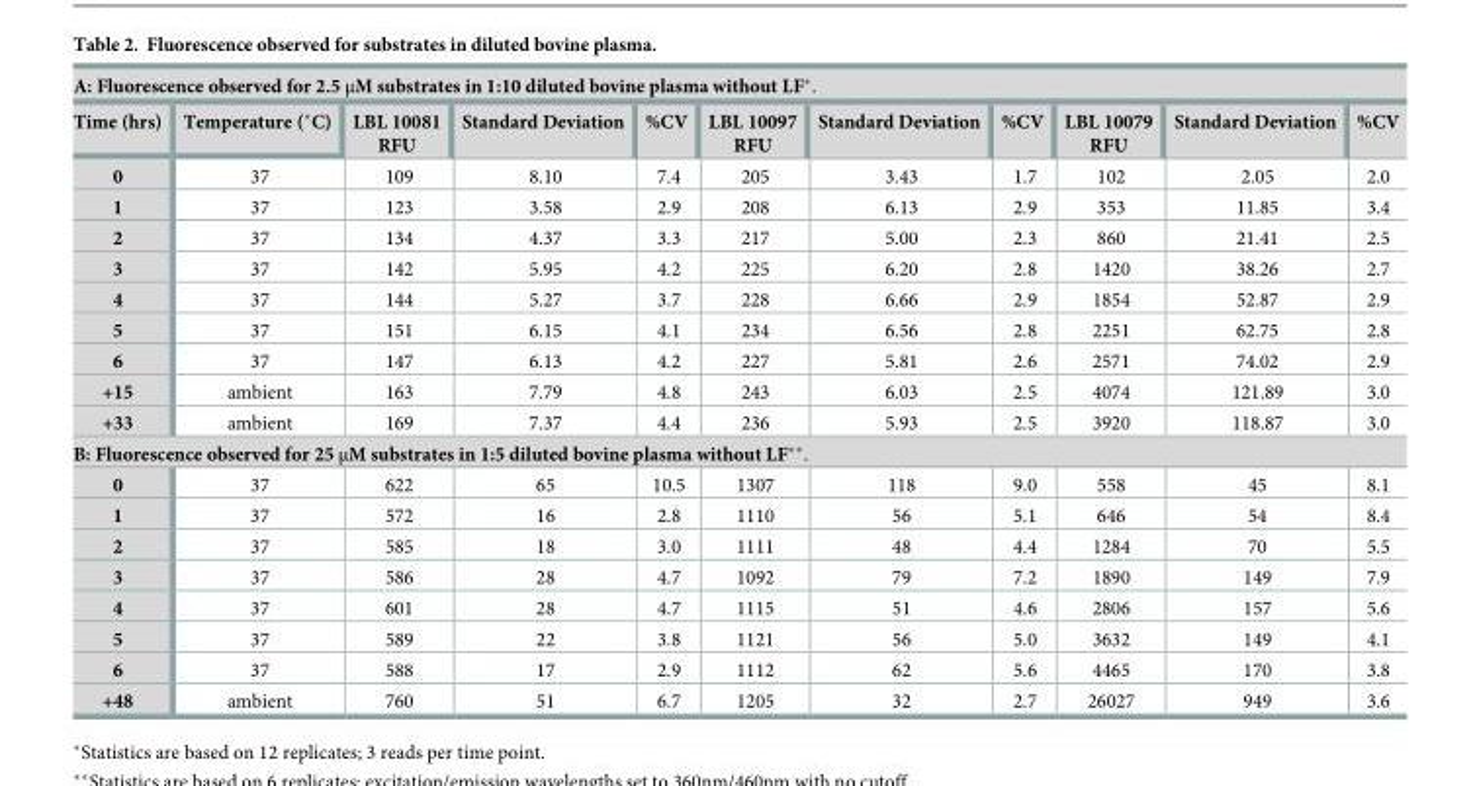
<table><tbody><tr><td colspan="11">A: Fluorescence observed for 2.5 μM substrates in 1:10 diluted bovine plasma without LF*.</td></tr><tr><td>Time (hrs)</td><td>Temperature (˚C)</td><td>LBL 10081 RFU</td><td>Standard Deviation</td><td>%CV</td><td>LBL 10097 RFU</td><td>Standard Deviation</td><td>%CV</td><td>LBL 10079 RFU</td><td>Standard Deviation</td><td>%CV</td></tr><tr><td>0</td><td>37</td><td>109</td><td>8.10</td><td>7.4</td><td>205</td><td>3.43</td><td>1.7</td><td>102</td><td>2.05</td><td>2.0</td></tr><tr><td>1</td><td>37</td><td>123</td><td>3.58</td><td>2.9</td><td>208</td><td>6.13</td><td>2.9</td><td>353</td><td>11.85</td><td>3.4</td></tr><tr><td>2</td><td>37</td><td>134</td><td>4.37</td><td>3.3</td><td>217</td><td>5.00</td><td>2.3</td><td>860</td><td>21.41</td><td>2.5</td></tr><tr><td>3</td><td>37</td><td>142</td><td>5.95</td><td>4.2</td><td>225</td><td>6.20</td><td>2.8</td><td>1420</td><td>38.26</td><td>2.7</td></tr><tr><td>4</td><td>37</td><td>144</td><td>5.27</td><td>3.7</td><td>228</td><td>6.66</td><td>2.9</td><td>1854</td><td>52.87</td><td>2.9</td></tr><tr><td>5</td><td>37</td><td>151</td><td>6.15</td><td>4.1</td><td>234</td><td>6.56</td><td>2.8</td><td>2251</td><td>62.75</td><td>2.8</td></tr><tr><td>6</td><td>37</td><td>147</td><td>6.13</td><td>4.2</td><td>227</td><td>5.81</td><td>2.6</td><td>2571</td><td>74.02</td><td>2.9</td></tr><tr><td>+15</td><td>ambient</td><td>163</td><td>7.79</td><td>4.8</td><td>243</td><td>6.03</td><td>2.5</td><td>4074</td><td>121.89</td><td>3.0</td></tr><tr><td>+33</td><td>ambient</td><td>169</td><td>7.37</td><td>4.4</td><td>236</td><td>5.93</td><td>2.5</td><td>3920</td><td>118.87</td><td>3.0</td></tr><tr><td colspan="11">B: Fluorescence observed for 25 μM substrates in 1:5 diluted bovine plasma without LF**.</td></tr><tr><td>0</td><td>37</td><td>622</td><td>65</td><td>10.5</td><td>1307</td><td>118</td><td>9.0</td><td>558</td><td>45</td><td>8.1</td></tr><tr><td>1</td><td>37</td><td>572</td><td>16</td><td>2.8</td><td>1110</td><td>56</td><td>5.1</td><td>646</td><td>54</td><td>8.4</td></tr><tr><td>2</td><td>37</td><td>585</td><td>18</td><td>3.0</td><td>1111</td><td>48</td><td>4.4</td><td>1284</td><td>70</td><td>5.5</td></tr><tr><td>3</td><td>37</td><td>586</td><td>28</td><td>4.7</td><td>1092</td><td>79</td><td>7.2</td><td>1890</td><td>149</td><td>7.9</td></tr><tr><td>4</td><td>37</td><td>601</td><td>28</td><td>4.7</td><td>1115</td><td>51</td><td>4.6</td><td>2806</td><td>157</td><td>5.6</td></tr><tr><td>5</td><td>37</td><td>589</td><td>22</td><td>3.8</td><td>1121</td><td>56</td><td>5.0</td><td>3632</td><td>149</td><td>4.1</td></tr><tr><td>6</td><td>37</td><td>588</td><td>17</td><td>2.9</td><td>1112</td><td>62</td><td>5.6</td><td>4465</td><td>170</td><td>3.8</td></tr><tr><td>+48</td><td>ambient</td><td>760</td><td>51</td><td>6.7</td><td>1205</td><td>32</td><td>2.7</td><td>26027</td><td>949</td><td>3.6</td></tr></tbody></table>